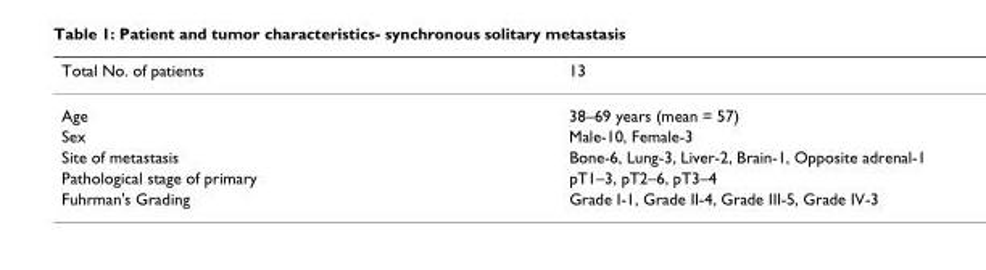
<table><thead><tr><td>Total No. of patients</td><td>13</td></tr></thead><tbody><tr><td>Age</td><td>38–69 years (mean = 57)</td></tr><tr><td>Sex</td><td>Male-10, Female-3</td></tr><tr><td>Site of metastasis</td><td>Bone-6, Lung-3, Liver-2, Brain-1, Opposite adrenal-1</td></tr><tr><td>Pathological stage of primary</td><td>pT1–3, pT2–6, pT3–4</td></tr><tr><td>Fuhrman&#x27;s Grading</td><td>Grade I-1, Grade II-4, Grade III-5, Grade IV-3</td></tr></tbody></table>